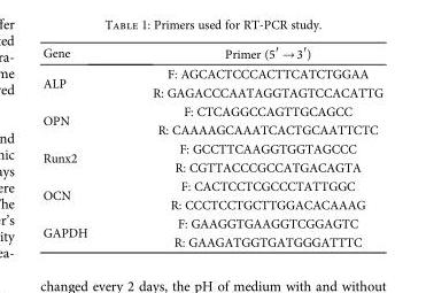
<table><thead><tr><td>Gene</td><td>Primer (5′ → 3′)</td></tr></thead><tbody><tr><td rowspan="2">ALP</td><td>F: AGCACTCCCACTTCATCTGGAA</td></tr><tr><td>R: GAGACCCAATAGGTAGTCCACATTG</td></tr><tr><td rowspan="2">OPN</td><td>F: CTCAGGCCAGTTGCAGCC</td></tr><tr><td>R: CAAAAGCAAATCACTGCAATTCTC</td></tr><tr><td rowspan="2">Runx2</td><td>F: GCCTTCAAGGTGGTAGCCC</td></tr><tr><td>R: CGTTACCCGCCATGACAGTA</td></tr><tr><td rowspan="2">OCN</td><td>F: CACTCCTCGCCCTATTGGC</td></tr><tr><td>R: CCCTCCTGCTTGGACACAAAG</td></tr><tr><td rowspan="2">GAPDH</td><td>F: GAAGGTGAAGGTCGGAGTC</td></tr><tr><td>R: GAAGATGGTGATGGGATTTC</td></tr></tbody></table>